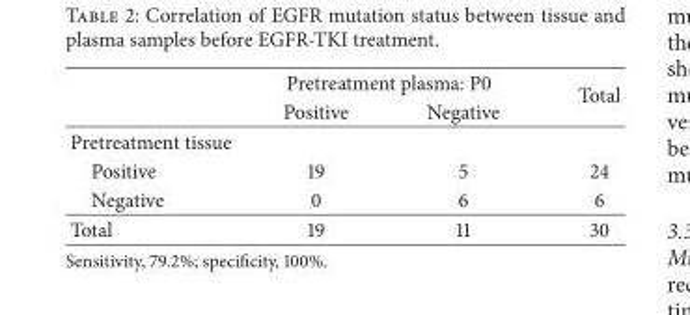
<table><thead><tr><td rowspan="2"></td><td colspan="2">Pretreatment plasma: P0</td><td rowspan="2">Total</td></tr><tr><td>Positive</td><td>Negative</td></tr></thead><tbody><tr><td colspan="4">Pretreatment tissue</td></tr><tr><td>Positive</td><td>19</td><td>5</td><td>24</td></tr><tr><td>Negative</td><td>0</td><td>6</td><td>6</td></tr><tr><td>Total</td><td>19</td><td>11</td><td>30</td></tr></tbody></table>